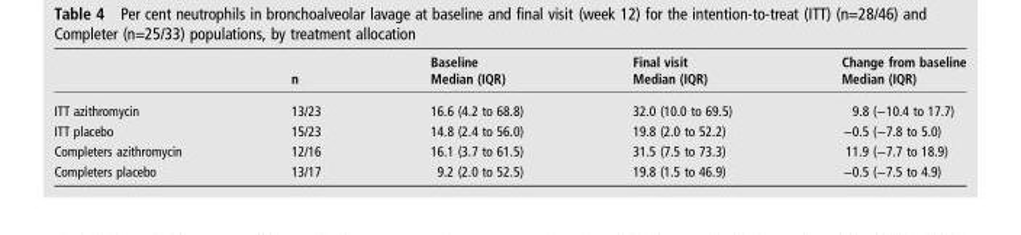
<table><thead><tr><td></td><td>n</td><td>Baseline Median (IQR)</td><td>Final visit Median (IQR)</td><td>Change from baseline Median (IQR)</td></tr></thead><tbody><tr><td>ITT azithromycin</td><td>13/23</td><td>16.6 (4.2 to 68.8)</td><td>32.0 (10.0 to 69.5)</td><td>9.8 (−10.4 to 17.7)</td></tr><tr><td>ITT placebo</td><td>15/23</td><td>14.8 (2.4 to 56.0)</td><td>19.8 (2.0 to 52.2)</td><td>−0.5 (−7.8 to 5.0)</td></tr><tr><td>Completers azithromycin</td><td>12/16</td><td>16.1 (3.7 to 61.5)</td><td>31.5 (7.5 to 73.3)</td><td>11.9 (−7.7 to 18.9)</td></tr><tr><td>Completers placebo</td><td>13/17</td><td>9.2 (2.0 to 52.5)</td><td>19.8 (1.5 to 46.9)</td><td>−0.5 (−7.5 to 4.9)</td></tr></tbody></table>